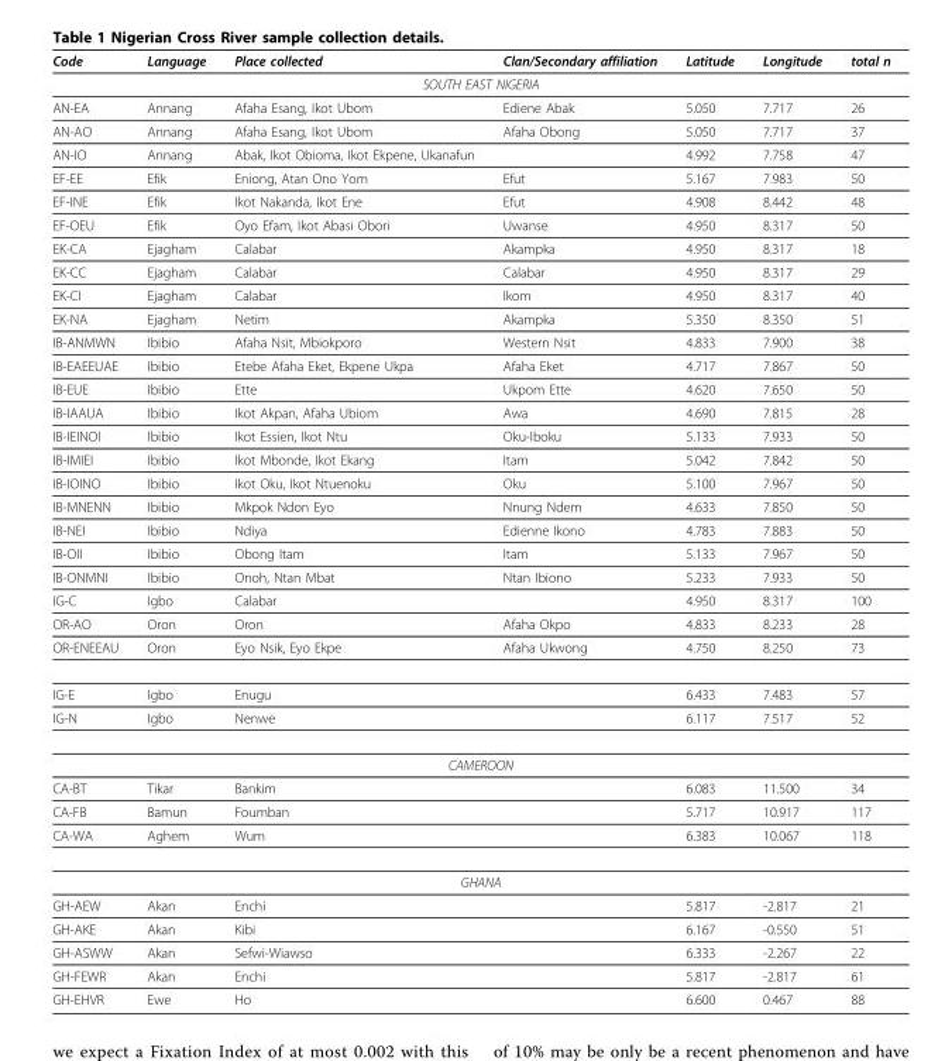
<table><thead><tr><td>Code</td><td>Language</td><td>Place collected</td><td>Clan/Secondary affiliation</td><td>Latitude</td><td>Longitude</td><td>total n</td></tr></thead><tbody><tr><td colspan="7">SOUTH EAST NIGERIA</td></tr><tr><td>AN-EA</td><td>Annang</td><td>Afaha Esang, Ikot Ubom</td><td>Ediene Abak</td><td>5.050</td><td>7.717</td><td>26</td></tr><tr><td>AN-AO</td><td>Annang</td><td>Afaha Esang, Ikot Ubom</td><td>Afaha Obong</td><td>5.050</td><td>7.717</td><td>37</td></tr><tr><td>AN-IO</td><td>Annang</td><td>Abak, Ikot Obioma, Ikot Ekpene, Ukanafun</td><td></td><td>4.992</td><td>7.758</td><td>47</td></tr><tr><td>EF-EE</td><td>Efik</td><td>Eniong, Atan Ono Yom</td><td>Efut</td><td>5.167</td><td>7.983</td><td>50</td></tr><tr><td>EF-INE</td><td>Efik</td><td>Ikot Nakanda, Ikot Ene</td><td>Efut</td><td>4.908</td><td>8.442</td><td>48</td></tr><tr><td>EF-OEU</td><td>Efik</td><td>Oyo Efam, Ikot Abasi Obori</td><td>Uwanse</td><td>4.950</td><td>8.317</td><td>50</td></tr><tr><td>EK-CA</td><td>Ejagham</td><td>Calabar</td><td>Akampka</td><td>4.950</td><td>8.317</td><td>18</td></tr><tr><td>EK-CC</td><td>Ejagham</td><td>Calabar</td><td>Calabar</td><td>4.950</td><td>8.317</td><td>29</td></tr><tr><td>EK-CI</td><td>Ejagham</td><td>Calabar</td><td>Ikom</td><td>4.950</td><td>8.317</td><td>40</td></tr><tr><td>EK-NA</td><td>Ejagham</td><td>Netim</td><td>Akampka</td><td>5.350</td><td>8.350</td><td>51</td></tr><tr><td>IB-ANMWN</td><td>Ibibio</td><td>Afaha Nsit, Mbiokporo</td><td>Western Nsit</td><td>4.833</td><td>7.900</td><td>38</td></tr><tr><td>IB-EAEEUAE</td><td>Ibibio</td><td>Etebe Afaha Eket, Ekpene Ukpa</td><td>Afaha Eket</td><td>4.717</td><td>7.867</td><td>50</td></tr><tr><td>IB-EUE</td><td>Ibibio</td><td>Ette</td><td>Ukpom Ette</td><td>4.620</td><td>7.650</td><td>50</td></tr><tr><td>IB-IAAUA</td><td>Ibibio</td><td>Ikot Akpan, Afaha Ubiom</td><td>Awa</td><td>4.690</td><td>7.815</td><td>28</td></tr><tr><td>IB-IEINOI</td><td>Ibibio</td><td>Ikot Essien, Ikot Ntu</td><td>Oku-Iboku</td><td>5.133</td><td>7.933</td><td>50</td></tr><tr><td>IB-IMIEI</td><td>Ibibio</td><td>Ikot Mbonde, Ikot Ekang</td><td>Itam</td><td>5.042</td><td>7.842</td><td>50</td></tr><tr><td>IB-IOINO</td><td>Ibibio</td><td>Ikot Oku, Ikot Ntuenoku</td><td>Oku</td><td>5.100</td><td>7.967</td><td>50</td></tr><tr><td>IB-MNENN</td><td>Ibibio</td><td>Mkpok Ndon Eyo</td><td>Nnung Ndem</td><td>4.633</td><td>7.850</td><td>50</td></tr><tr><td>IB-NEI</td><td>Ibibio</td><td>Ndiya</td><td>Edienne Ikono</td><td>4.783</td><td>7.883</td><td>50</td></tr><tr><td>IB-OII</td><td>Ibibio</td><td>Obong Itam</td><td>Itam</td><td>5.133</td><td>7.967</td><td>50</td></tr><tr><td>IB-ONMNI</td><td>Ibibio</td><td>Onoh, Ntan Mbat</td><td>Ntan Ibiono</td><td>5.233</td><td>7.933</td><td>50</td></tr><tr><td>IG-C</td><td>Igbo</td><td>Calabar</td><td></td><td>4.950</td><td>8.317</td><td>100</td></tr><tr><td>OR-AO</td><td>Oron</td><td>Oron</td><td>Afaha Okpo</td><td>4.833</td><td>8.233</td><td>28</td></tr><tr><td>OR-ENEEAU</td><td>Oron</td><td>Eyo Nsik, Eyo Ekpe</td><td>Afaha Ukwong</td><td>4.750</td><td>8.250</td><td>73</td></tr><tr><td>IG-E</td><td>Igbo</td><td>Enugu</td><td></td><td>6.433</td><td>7.483</td><td>57</td></tr><tr><td>IG-N</td><td>Igbo</td><td>Nenwe</td><td></td><td>6.117</td><td>7.517</td><td>52</td></tr><tr><td colspan="7">CAMEROON</td></tr><tr><td>CA-BT</td><td>Tikar</td><td>Bankim</td><td></td><td>6.083</td><td>11.500</td><td>34</td></tr><tr><td>CA-FB</td><td>Bamun</td><td>Foumban</td><td></td><td>5.717</td><td>10.917</td><td>117</td></tr><tr><td>CA-WA</td><td>Aghem</td><td>Wum</td><td></td><td>6.383</td><td>10.067</td><td>118</td></tr><tr><td colspan="7">GHANA</td></tr><tr><td>GH-AEW</td><td>Akan</td><td>Enchi</td><td></td><td>5.817</td><td>-2.817</td><td>21</td></tr><tr><td>GH-AKE</td><td>Akan</td><td>Kibi</td><td></td><td>6.167</td><td>-0.550</td><td>51</td></tr><tr><td>GH-ASWW</td><td>Akan</td><td>Sefwi-Wiawso</td><td></td><td>6.333</td><td>-2.267</td><td>22</td></tr><tr><td>GH-FEWR</td><td>Akan</td><td>Enchi</td><td></td><td>5.817</td><td>-2.817</td><td>61</td></tr><tr><td>GH-EHVR</td><td>Ewe</td><td>Ho</td><td></td><td>6.600</td><td>0.467</td><td>88</td></tr></tbody></table>